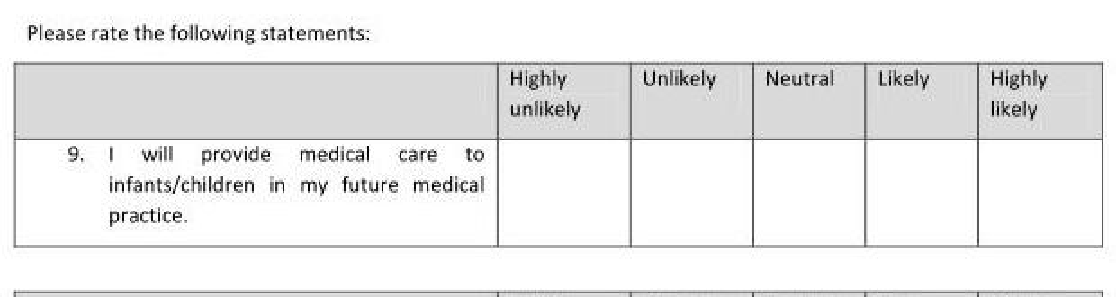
<table><thead><tr><td></td><td>Highly unlikely</td><td>Unlikely</td><td>Neutral</td><td>Likely</td><td>Highly likely</td></tr></thead><tbody><tr><td>9. I will provide medical care to infants/children in my future medical practice.</td><td></td><td></td><td></td><td></td><td></td></tr></tbody></table>